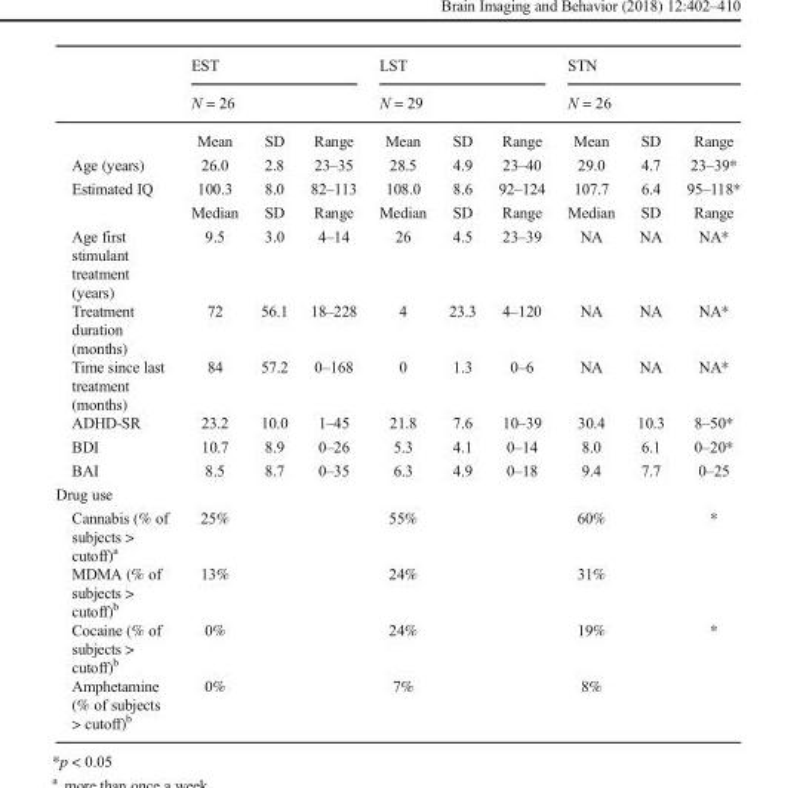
<table><thead><tr><td rowspan="3"></td><td rowspan="2" colspan="3">EST N = 26</td><td rowspan="2" colspan="3">LST N = 29</td><td rowspan="2" colspan="3">STN N = 26</td></tr><tr></tr><tr><td>Mean</td><td>SD</td><td>Range</td><td>Mean</td><td>SD</td><td>Range</td><td>Mean</td><td>SD</td><td>Range</td></tr></thead><tbody><tr><td>Age (years)</td><td>26.0</td><td>2.8</td><td>23–35</td><td>28.5</td><td>4.9</td><td>23–40</td><td>29.0</td><td>4.7</td><td>23–39*</td></tr><tr><td rowspan="2">Estimated IQ</td><td>100.3</td><td>8.0</td><td>82–113</td><td>108.0</td><td>8.6</td><td>92–124</td><td>107.7</td><td>6.4</td><td>95–118*</td></tr><tr><td>Median</td><td>SD</td><td>Range</td><td>Median</td><td>SD</td><td>Range</td><td>Median</td><td>SD</td><td>Range</td></tr><tr><td>Age first stimulant treatment (years)</td><td>9.5</td><td>3.0</td><td>4–14</td><td>26</td><td>4.5</td><td>23–39</td><td>NA</td><td>NA</td><td>NA*</td></tr><tr><td>Treatment duration (months)</td><td>72</td><td>56.1</td><td>18–228</td><td>4</td><td>23.3</td><td>4–120</td><td>NA</td><td>NA</td><td>NA*</td></tr><tr><td>Time since last treatment (months)</td><td>84</td><td>57.2</td><td>0–168</td><td>0</td><td>1.3</td><td>0–6</td><td>NA</td><td>NA</td><td>NA*</td></tr><tr><td>ADHD-SR</td><td>23.2</td><td>10.0</td><td>1–45</td><td>21.8</td><td>7.6</td><td>10–39</td><td>30.4</td><td>10.3</td><td>8–50*</td></tr><tr><td>BDI</td><td>10.7</td><td>8.9</td><td>0–26</td><td>5.3</td><td>4.1</td><td>0–14</td><td>8.0</td><td>6.1</td><td>0–20*</td></tr><tr><td>BAI</td><td>8.5</td><td>8.7</td><td>0–35</td><td>6.3</td><td>4.9</td><td>0–18</td><td>9.4</td><td>7.7</td><td>0–25</td></tr><tr><td colspan="10">Drug use</td></tr><tr><td>Cannabis (% of subjects &gt; cutoff)<sup>a</sup></td><td>25%</td><td></td><td></td><td>55%</td><td></td><td></td><td>60%</td><td></td><td>*</td></tr><tr><td>MDMA (% of subjects &gt; cutoff)<sup>b</sup></td><td>13%</td><td></td><td></td><td>24%</td><td></td><td></td><td>31%</td><td></td><td></td></tr><tr><td>Cocaine (% of subjects &gt; cutoff)<sup>b</sup></td><td>0%</td><td></td><td></td><td>24%</td><td></td><td></td><td>19%</td><td></td><td>*</td></tr><tr><td>Amphetamine (% of subjects &gt; cutoff)<sup>b</sup></td><td>0%</td><td></td><td></td><td>7%</td><td></td><td></td><td>8%</td><td></td><td></td></tr></tbody></table>